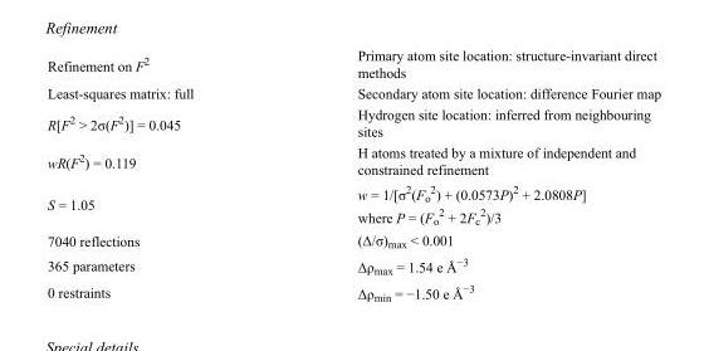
<table><tbody><tr><td>Refinement on F<sup>2</sup></td><td>Primary atom site location: structure-invariant direct methods</td></tr><tr><td>Least-squares matrix: full</td><td>Secondary atom site location: difference Fourier map</td></tr><tr><td>R[F<sup>2</sup> &gt; 2σ(F<sup>2</sup>)] = 0.045</td><td>Hydrogen site location: inferred from neighbouring sites</td></tr><tr><td>wR(F<sup>2</sup>) = 0.119</td><td>H atoms treated by a mixture of independent and constrained refinement</td></tr><tr><td>S = 1.05</td><td>w = 1/[σ<sup>2</sup>(F<sub>o</sub> <sup>2</sup>) + (0.0573P)<sup>2</sup> + 2.0808P] where P = (F<sub>o</sub> <sup>2</sup> + 2F<sub>c</sub> <sup>2</sup>)/3</td></tr><tr><td>7040 reflections</td><td>(Δ/σ)<sub>max</sub> &lt; 0.001</td></tr><tr><td>365 parameters</td><td>Δρ<sub>max</sub> = 1.54 e Å<sup>−3</sup></td></tr><tr><td>0 restraints</td><td>Δρ<sub>min</sub> = −1.50 e Å<sup>−3</sup></td></tr></tbody></table>